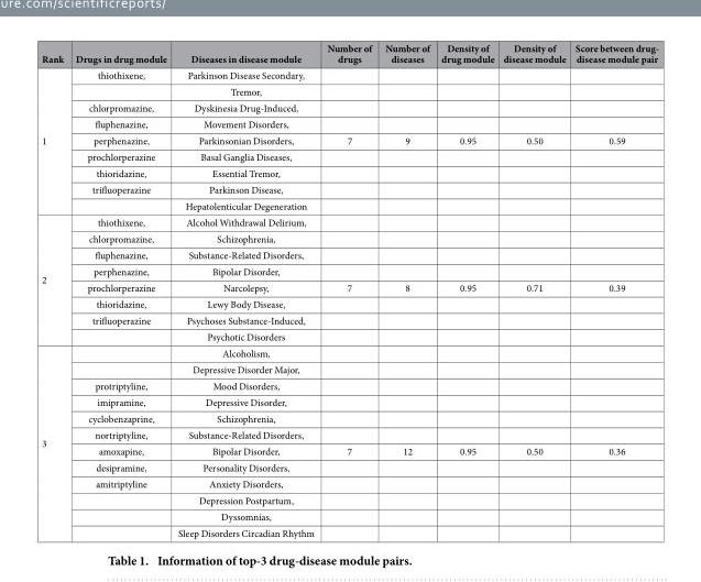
<table><thead><tr><td>Rank</td><td>Drugs in drug module</td><td>Diseases in disease module</td><td>Number of drugs</td><td>Number of diseases</td><td>Density of drug module</td><td>Density of disease module</td><td>Score between drug- disease module pair</td></tr></thead><tbody><tr><td rowspan="9">1</td><td>thiothixene,</td><td>Parkinson Disease Secondary,</td><td></td><td></td><td></td><td></td><td></td></tr><tr><td></td><td>Tremor,</td><td></td><td></td><td></td><td></td><td></td></tr><tr><td>chlorpromazine,</td><td>Dyskinesia Drug-Induced,</td><td></td><td></td><td></td><td></td><td></td></tr><tr><td>fluphenazine,</td><td>Movement Disorders,</td><td></td><td></td><td></td><td></td><td></td></tr><tr><td>perphenazine,</td><td>Parkinsonian Disorders,</td><td>7</td><td>9</td><td>0.95</td><td>0.50</td><td>0.59</td></tr><tr><td>prochlorperazine</td><td>Basal Ganglia Diseases,</td><td></td><td></td><td></td><td></td><td></td></tr><tr><td>thioridazine,</td><td>Essential Tremor,</td><td></td><td></td><td></td><td></td><td></td></tr><tr><td>trifluoperazine</td><td>Parkinson Disease,</td><td></td><td></td><td></td><td></td><td></td></tr><tr><td></td><td>Hepatolenticular Degeneration</td><td></td><td></td><td></td><td></td><td></td></tr><tr><td rowspan="8">2</td><td>thiothixene,</td><td>Alcohol Withdrawal Delirium,</td><td></td><td></td><td></td><td></td><td></td></tr><tr><td>chlorpromazine,</td><td>Schizophrenia,</td><td></td><td></td><td></td><td></td><td></td></tr><tr><td>fluphenazine,</td><td>Substance-Related Disorders,</td><td></td><td></td><td></td><td></td><td></td></tr><tr><td>perphenazine,</td><td>Bipolar Disorder,</td><td></td><td></td><td></td><td></td><td></td></tr><tr><td>prochlorperazine</td><td>Narcolepsy,</td><td>7</td><td>8</td><td>0.95</td><td>0.71</td><td>0.39</td></tr><tr><td>thioridazine,</td><td>Lewy Body Disease,</td><td></td><td></td><td></td><td></td><td></td></tr><tr><td>trifluoperazine</td><td>Psychoses Substance-Induced,</td><td></td><td></td><td></td><td></td><td></td></tr><tr><td></td><td>Psychotic Disorders</td><td></td><td></td><td></td><td></td><td></td></tr><tr><td rowspan="12">3</td><td></td><td>Alcoholism,</td><td></td><td></td><td></td><td></td><td></td></tr><tr><td></td><td>Depressive Disorder Major,</td><td></td><td></td><td></td><td></td><td></td></tr><tr><td>protriptyline,</td><td>Mood Disorders,</td><td></td><td></td><td></td><td></td><td></td></tr><tr><td>imipramine,</td><td>Depressive Disorder,</td><td></td><td></td><td></td><td></td><td></td></tr><tr><td>cyclobenzaprine,</td><td>Schizophrenia,</td><td></td><td></td><td></td><td></td><td></td></tr><tr><td>nortriptyline,</td><td>Substance-Related Disorders,</td><td></td><td></td><td></td><td></td><td></td></tr><tr><td>amoxapine,</td><td>Bipolar Disorder,</td><td>7</td><td>12</td><td>0.95</td><td>0.50</td><td>0.36</td></tr><tr><td>desipramine,</td><td>Personality Disorders,</td><td></td><td></td><td></td><td></td><td></td></tr><tr><td>amitriptyline</td><td>Anxiety Disorders,</td><td></td><td></td><td></td><td></td><td></td></tr><tr><td></td><td>Depression Postpartum,</td><td></td><td></td><td></td><td></td><td></td></tr><tr><td></td><td>Dyssomnias,</td><td></td><td></td><td></td><td></td><td></td></tr><tr><td></td><td>Sleep Disorders Circadian Rhythm</td><td></td><td></td><td></td><td></td><td></td></tr></tbody></table>